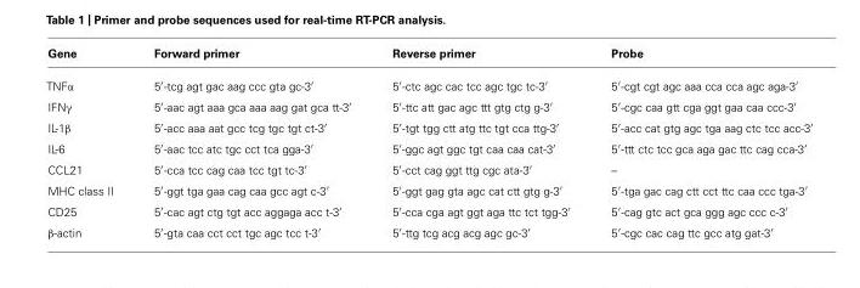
<table><thead><tr><td>Gene</td><td>Forward primer</td><td>Reverse primer</td><td>Probe</td></tr></thead><tbody><tr><td>TNFα</td><td>5′-tcg agt gac aag ccc gta gc-3′</td><td>5′-ctc agc cac tcc agc tgc tc-3′</td><td>5′-cgt cgt agc aaa cca cca agc aga-3′</td></tr><tr><td>IFNγ</td><td>5′-aac agt aaa gca aaa aag gat gca tt-3′</td><td>5′-ttc att gac agc ttt gtg ctg g-3′</td><td>5′-cgc caa gtt cga ggt gaa caa ccc-3′</td></tr><tr><td>IL-1β</td><td>5′-acc aaa aat gcc tcg tgc tgt ct-3′</td><td>5′-tgt tgg ctt atg ttc tgt cca ttg-3′</td><td>5′-acc cat gtg agc tga aag ctc tcc acc-3′</td></tr><tr><td>IL-6</td><td>5′-aac tcc atc tgc cct tca gga-3′</td><td>5′-ggc agt ggc tgt caa caa cat-3′</td><td>5′-ttt ctc tcc gca aga gac ttc cag cca-3′</td></tr><tr><td>CCL21</td><td>5′-cca tcc cag caa tcc tgt tc-3′</td><td>5′-cct cag ggt ttg cgc ata-3′</td><td>–</td></tr><tr><td>MHC class II</td><td>5′-ggt tga gaa cag caa gcc agt c-3′</td><td>5′-ggt gag gta agc cat ctt gtg g-3′</td><td>5′-tga gac cag ctt cct ttc caa ccc tga-3′</td></tr><tr><td>CD25</td><td>5′-cac agt ctg tgt acc aggaga acc t-3′</td><td>5′-cca cga agt ggt aga ttc tct tgg-3′</td><td>5′-cag gtc act gca ggg agc ccc c-3′</td></tr><tr><td>β-actin</td><td>5′-gta caa cct cct tgc agc tcc t-3′</td><td>5′-ttg tcg acg acg agc gc-3′</td><td>5′-cgc cac cag ttc gcc atg gat-3′</td></tr></tbody></table>